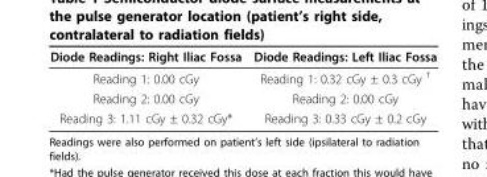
<table><thead><tr><td>Diode Readings: Right Iliac Fossa</td><td>Diode Readings: Left Iliac Fossa</td></tr></thead><tbody><tr><td>Reading 1: 0.00 cGy</td><td>Reading 1: 0.32 cGy ± 0.3 cGy <sup>†</sup></td></tr><tr><td>Reading 2: 0.00 cGy</td><td>Reading 2: 0.00 cGy</td></tr><tr><td>Reading 3: 1.11 cGy ± 0.32 cGy*</td><td>Reading 3: 0.33 cGy ± 0.2 cGy</td></tr></tbody></table>